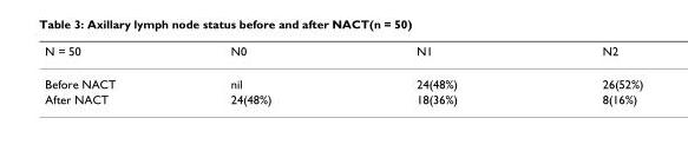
<table><thead><tr><td>N = 50</td><td>N0</td><td>N1</td><td>N2</td></tr></thead><tbody><tr><td>Before NACT</td><td>nil</td><td>24(48%)</td><td>26(52%)</td></tr><tr><td>After NACT</td><td>24(48%)</td><td>18(36%)</td><td>8(16%)</td></tr></tbody></table>